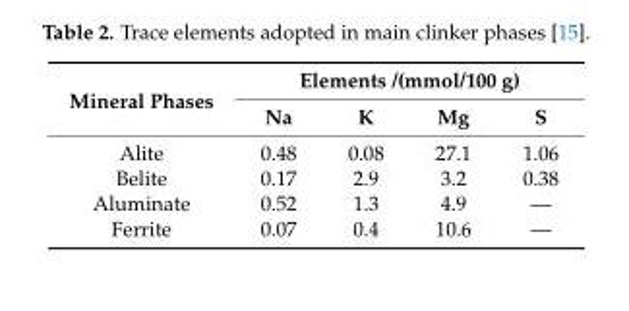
<table><thead><tr><td rowspan="2">Mineral Phases</td><td colspan="4">Elements /(mmol/100 g)</td></tr><tr><td>Na</td><td>K</td><td>Mg</td><td>S</td></tr></thead><tbody><tr><td>Alite</td><td>0.48</td><td>0.08</td><td>27.1</td><td>1.06</td></tr><tr><td>Belite</td><td>0.17</td><td>2.9</td><td>3.2</td><td>0.38</td></tr><tr><td>Aluminate</td><td>0.52</td><td>1.3</td><td>4.9</td><td>—</td></tr><tr><td>Ferrite</td><td>0.07</td><td>0.4</td><td>10.6</td><td>—</td></tr></tbody></table>